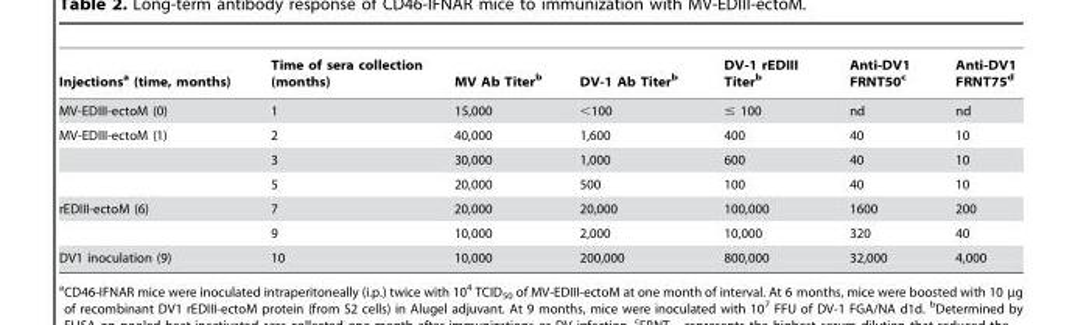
<table><thead><tr><td>Injections<sup>a</sup> (time, months)</td><td>Time of sera collection (months)</td><td>MV Ab Titer<sup>b</sup></td><td>DV-1 Ab Titer<sup>b</sup></td><td>DV-1 rEDIII Titer<sup>b</sup></td><td>Anti-DV1 FRNT50<sup>c</sup></td><td>Anti-DV1 FRNT75<sup>d</sup></td></tr></thead><tbody><tr><td>MV-EDIII-ectoM (0)</td><td>1</td><td>15,000</td><td>&lt;100</td><td>≤ 100</td><td>nd</td><td>nd</td></tr><tr><td rowspan="3">MV-EDIII-ectoM (1)</td><td>2</td><td>40,000</td><td>1,600</td><td>400</td><td>40</td><td>10</td></tr><tr><td>3</td><td>30,000</td><td>1,000</td><td>600</td><td>40</td><td>10</td></tr><tr><td>5</td><td>20,000</td><td>500</td><td>100</td><td>40</td><td>10</td></tr><tr><td rowspan="2">rEDIII-ectoM (6)</td><td>7</td><td>20,000</td><td>20,000</td><td>100,000</td><td>1600</td><td>200</td></tr><tr><td>9</td><td>10,000</td><td>2,000</td><td>10,000</td><td>320</td><td>40</td></tr><tr><td>DV1 inoculation (9)</td><td>10</td><td>10,000</td><td>200,000</td><td>800,000</td><td>32,000</td><td>4,000</td></tr></tbody></table>